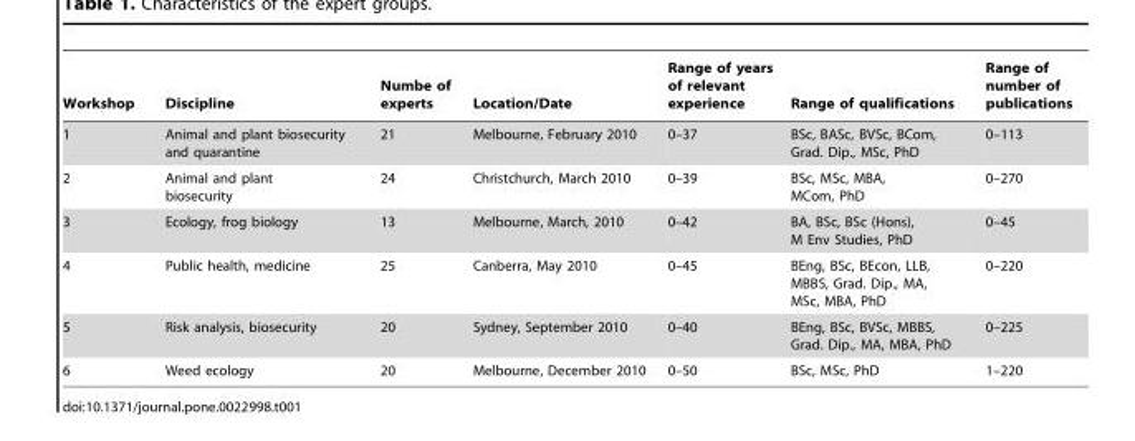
<table><thead><tr><td>Workshop</td><td>Discipline</td><td>Numbe of experts</td><td>Location/Date</td><td>Range of years of relevant experience</td><td>Range of qualifications</td><td>Range of number of publications</td></tr></thead><tbody><tr><td>1</td><td>Animal and plant biosecurity and quarantine</td><td>21</td><td>Melbourne, February 2010</td><td>0–37</td><td>BSc, BASc, BVSc, BCom, Grad. Dip., MSc, PhD</td><td>0–113</td></tr><tr><td>2</td><td>Animal and plant biosecurity</td><td>24</td><td>Christchurch, March 2010</td><td>0–39</td><td>BSc, MSc, MBA, MCom, PhD</td><td>0–270</td></tr><tr><td>3</td><td>Ecology, frog biology</td><td>13</td><td>Melbourne, March, 2010</td><td>0–42</td><td>BA, BSc, BSc (Hons), M Env Studies, PhD</td><td>0–45</td></tr><tr><td>4</td><td>Public health, medicine</td><td>25</td><td>Canberra, May 2010</td><td>0–45</td><td>BEng, BSc, BEcon, LLB, MBBS, Grad. Dip., MA, MSc, MBA, PhD</td><td>0–220</td></tr><tr><td>5</td><td>Risk analysis, biosecurity</td><td>20</td><td>Sydney, September 2010</td><td>0–40</td><td>BEng, BSc, BVSc, MBBS, Grad. Dip., MA, MBA, PhD</td><td>0–225</td></tr><tr><td>6</td><td>Weed ecology</td><td>20</td><td>Melbourne, December 2010</td><td>0–50</td><td>BSc, MSc, PhD</td><td>1–220</td></tr></tbody></table>